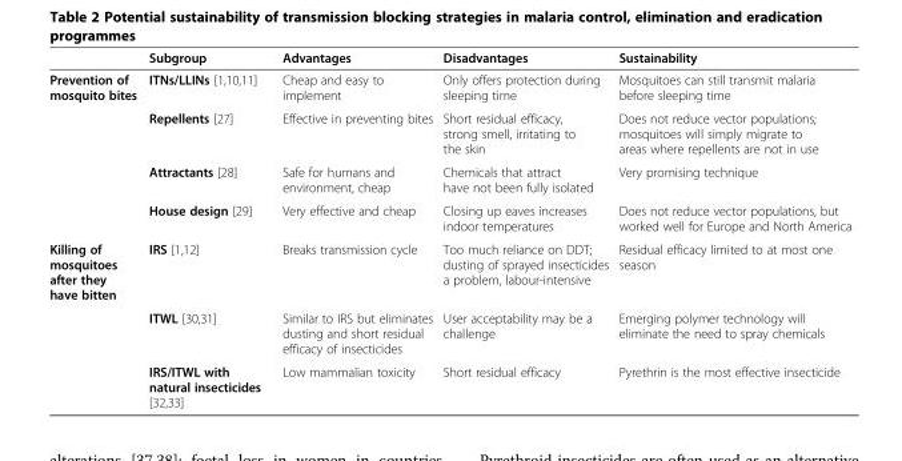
<table><thead><tr><td></td><td>Subgroup</td><td>Advantages</td><td>Disadvantages</td><td>Sustainability</td></tr></thead><tbody><tr><td rowspan="4">Prevention of mosquito bites</td><td>ITNs/LLINs [1,10,11]</td><td>Cheap and easy to implement</td><td>Only offers protection during sleeping time</td><td>Mosquitoes can still transmit malaria before sleeping time</td></tr><tr><td>Repellents [27]</td><td>Effective in preventing bites</td><td>Short residual efficacy, strong smell, irritating to the skin</td><td>Does not reduce vector populations; mosquitoes will simply migrate to areas where repellents are not in use</td></tr><tr><td>Attractants [28]</td><td>Safe for humans and environment, cheap</td><td>Chemicals that attract have not been fully isolated</td><td>Very promising technique</td></tr><tr><td>House design [29]</td><td>Very effective and cheap</td><td>Closing up eaves increases indoor temperatures</td><td>Does not reduce vector populations, but worked well for Europe and North America</td></tr><tr><td rowspan="3">Killing of mosquitoes after they have bitten</td><td>IRS [1,12]</td><td>Breaks transmission cycle</td><td>Too much reliance on DDT; dusting of sprayed insecticides a problem, labour-intensive</td><td>Residual efficacy limited to at most one season</td></tr><tr><td>ITWL [30,31]</td><td>Similar to IRS but eliminates dusting and short residual efficacy of insecticides</td><td>User acceptability may be a challenge</td><td>Emerging polymer technology will eliminate the need to spray chemicals</td></tr><tr><td>IRS/ITWL with natural insecticides [32,33]</td><td>Low mammalian toxicity</td><td>Short residual efficacy</td><td>Pyrethrin is the most effective insecticide</td></tr></tbody></table>